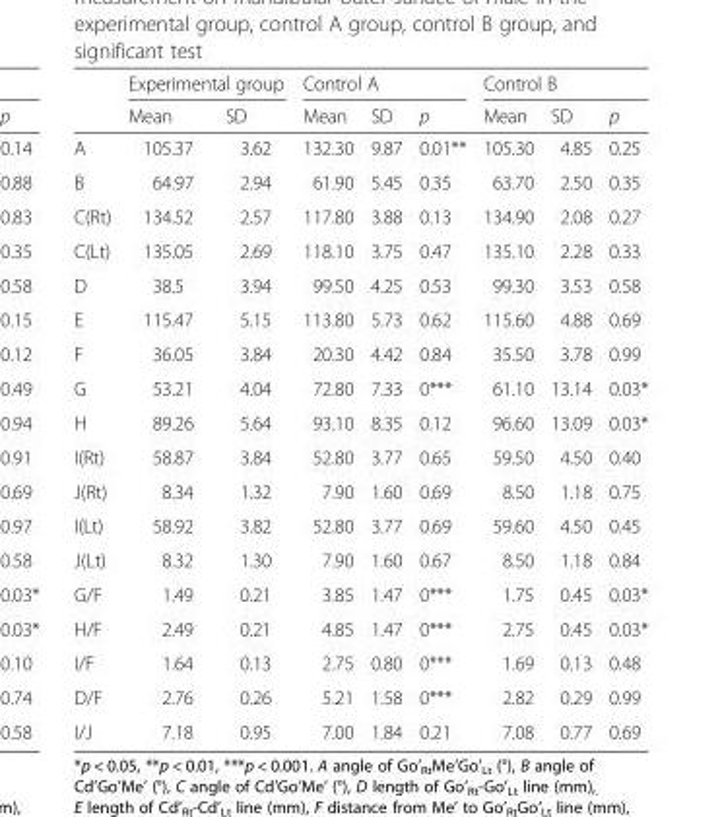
<table><thead><tr><td rowspan="2"></td><td colspan="2">Experimental group</td><td colspan="3">Control A</td><td colspan="3">Control B</td></tr><tr><td>Mean</td><td>SD</td><td>Mean</td><td>SD</td><td>p</td><td>Mean</td><td>SD</td><td>p</td></tr></thead><tbody><tr><td>A</td><td>105.37</td><td>3.62</td><td>132.30</td><td>9.87</td><td>0.01**</td><td>105.30</td><td>4.85</td><td>0.25</td></tr><tr><td>B</td><td>64.97</td><td>2.94</td><td>61.90</td><td>5.45</td><td>0.35</td><td>63.70</td><td>2.50</td><td>0.35</td></tr><tr><td>C(Rt)</td><td>134.52</td><td>2.57</td><td>117.80</td><td>3.88</td><td>0.13</td><td>134.90</td><td>2.08</td><td>0.27</td></tr><tr><td>C(Lt)</td><td>135.05</td><td>2.69</td><td>118.10</td><td>3.75</td><td>0.47</td><td>135.10</td><td>2.28</td><td>0.33</td></tr><tr><td>D</td><td>38.5</td><td>3.94</td><td>99.50</td><td>4.25</td><td>0.53</td><td>99.30</td><td>3.53</td><td>0.58</td></tr><tr><td>E</td><td>115.47</td><td>5.15</td><td>113.80</td><td>5.73</td><td>0.62</td><td>115.60</td><td>4.88</td><td>0.69</td></tr><tr><td>F</td><td>36.05</td><td>3.84</td><td>20.30</td><td>4.42</td><td>0.84</td><td>35.50</td><td>3.78</td><td>0.99</td></tr><tr><td>G</td><td>53.21</td><td>4.04</td><td>72.80</td><td>7.33</td><td>0***</td><td>61.10</td><td>13.14</td><td>0.03*</td></tr><tr><td>H</td><td>89.26</td><td>5.64</td><td>93.10</td><td>8.35</td><td>0.12</td><td>96.60</td><td>13.09</td><td>0.03*</td></tr><tr><td>I(Rt)</td><td>58.87</td><td>3.84</td><td>52.80</td><td>3.77</td><td>0.65</td><td>59.50</td><td>4.50</td><td>0.40</td></tr><tr><td>J(Rt)</td><td>8.34</td><td>1.32</td><td>7.90</td><td>1.60</td><td>0.69</td><td>8.50</td><td>1.18</td><td>0.75</td></tr><tr><td>I(Lt)</td><td>58.92</td><td>3.82</td><td>52.80</td><td>3.77</td><td>0.69</td><td>59.60</td><td>4.50</td><td>0.45</td></tr><tr><td>J(Lt)</td><td>8.32</td><td>1.30</td><td>7.90</td><td>1.60</td><td>0.67</td><td>8.50</td><td>1.18</td><td>0.84</td></tr><tr><td>G/F</td><td>1.49</td><td>0.21</td><td>3.85</td><td>1.47</td><td>0***</td><td>1.75</td><td>0.45</td><td>0.03*</td></tr><tr><td>H/F</td><td>2.49</td><td>0.21</td><td>4.85</td><td>1.47</td><td>0***</td><td>2.75</td><td>0.45</td><td>0.03*</td></tr><tr><td>I/F</td><td>1.64</td><td>0.13</td><td>2.75</td><td>0.80</td><td>0***</td><td>1.69</td><td>0.13</td><td>0.48</td></tr><tr><td>D/F</td><td>2.76</td><td>0.26</td><td>5.21</td><td>1.58</td><td>0***</td><td>2.82</td><td>0.29</td><td>0.99</td></tr><tr><td>I/J</td><td>7.18</td><td>0.95</td><td>7.00</td><td>1.84</td><td>0.21</td><td>7.08</td><td>0.77</td><td>0.69</td></tr></tbody></table>